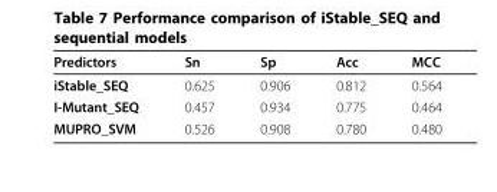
<table><thead><tr><td>Predictors</td><td>Sn</td><td>Sp</td><td>Acc</td><td>MCC</td></tr></thead><tbody><tr><td>iStable_SEQ</td><td>0.625</td><td>0.906</td><td>0.812</td><td>0.564</td></tr><tr><td>I-Mutant_SEQ</td><td>0.457</td><td>0.934</td><td>0.775</td><td>0.464</td></tr><tr><td>MUPRO_SVM</td><td>0.526</td><td>0.908</td><td>0.780</td><td>0.480</td></tr></tbody></table>